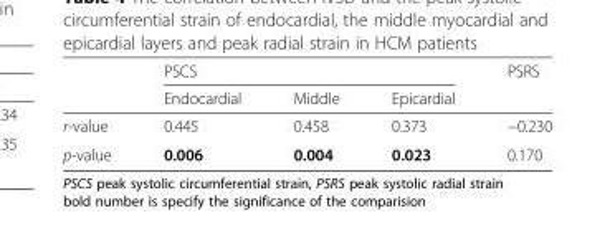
<table><thead><tr><td rowspan="2"></td><td colspan="3">PSCS</td><td rowspan="2">PSRS</td></tr><tr><td>Endocardial</td><td>Middle</td><td>Epicardial</td></tr></thead><tbody><tr><td>r-value</td><td>0.445</td><td>0.458</td><td>0.373</td><td>−0.230</td></tr><tr><td>p-value</td><td>0.006</td><td>0.004</td><td>0.023</td><td>0.170</td></tr></tbody></table>